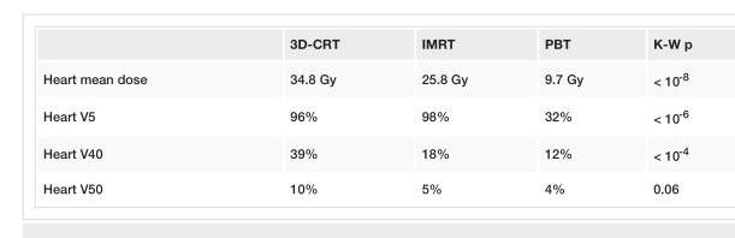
<table><thead><tr><td></td><td>3D-CRT</td><td>IMRT</td><td>PBT</td><td>K-W p</td></tr></thead><tbody><tr><td>Heart mean dose</td><td>34.8 Gy</td><td>25.8 Gy</td><td>9.7 Gy</td><td>&lt; 10<sup>-8</sup></td></tr><tr><td>Heart V5</td><td>96%</td><td>98%</td><td>32%</td><td>&lt; 10<sup>-6</sup></td></tr><tr><td>Heart V40</td><td>39%</td><td>18%</td><td>12%</td><td>&lt; 10<sup>-4</sup></td></tr><tr><td>Heart V50</td><td>10%</td><td>5%</td><td>4%</td><td>0.06</td></tr></tbody></table>